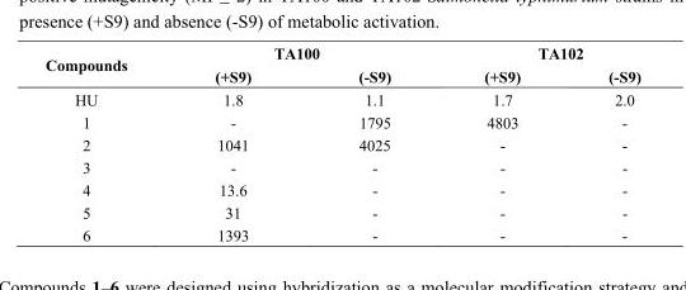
<table><thead><tr><td rowspan="2">Compounds</td><td colspan="2">TA100</td><td colspan="2">TA102</td></tr><tr><td>(+S9)</td><td>(-S9)</td><td>(+S9)</td><td>(-S9)</td></tr></thead><tbody><tr><td>HU</td><td>1.8</td><td>1.1</td><td>1.7</td><td>2.0</td></tr><tr><td>1</td><td>-</td><td>1795</td><td>4803</td><td>-</td></tr><tr><td>2</td><td>1041</td><td>4025</td><td>-</td><td>-</td></tr><tr><td>3</td><td>-</td><td>-</td><td>-</td><td>-</td></tr><tr><td>4</td><td>13.6</td><td>-</td><td>-</td><td>-</td></tr><tr><td>5</td><td>31</td><td>-</td><td>-</td><td>-</td></tr><tr><td>6</td><td>1393</td><td>-</td><td>-</td><td>-</td></tr></tbody></table>